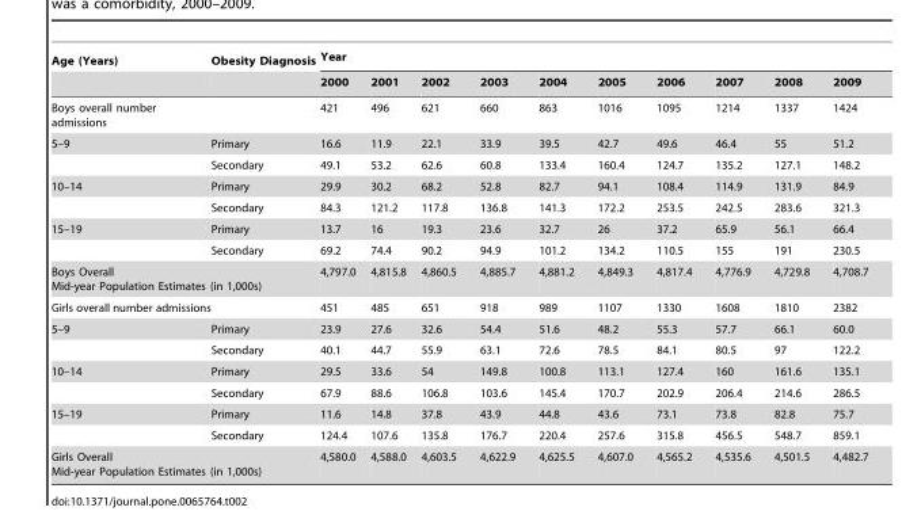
<table><thead><tr><td rowspan="2">Age (Years)</td><td rowspan="2">Obesity Diagnosis</td><td colspan="10">Year</td></tr><tr><td>2000</td><td>2001</td><td>2002</td><td>2003</td><td>2004</td><td>2005</td><td>2006</td><td>2007</td><td>2008</td><td>2009</td></tr></thead><tbody><tr><td>Boys overall number admissions</td><td></td><td>421</td><td>496</td><td>621</td><td>660</td><td>863</td><td>1016</td><td>1095</td><td>1214</td><td>1337</td><td>1424</td></tr><tr><td rowspan="2">5–9</td><td>Primary</td><td>16.6</td><td>11.9</td><td>22.1</td><td>33.9</td><td>39.5</td><td>42.7</td><td>49.6</td><td>46.4</td><td>55</td><td>51.2</td></tr><tr><td>Secondary</td><td>49.1</td><td>53.2</td><td>62.6</td><td>60.8</td><td>133.4</td><td>160.4</td><td>124.7</td><td>135.2</td><td>127.1</td><td>148.2</td></tr><tr><td rowspan="2">10–14</td><td>Primary</td><td>29.9</td><td>30.2</td><td>68.2</td><td>52.8</td><td>82.7</td><td>94.1</td><td>108.4</td><td>114.9</td><td>131.9</td><td>84.9</td></tr><tr><td>Secondary</td><td>84.3</td><td>121.2</td><td>117.8</td><td>136.8</td><td>141.3</td><td>172.2</td><td>253.5</td><td>242.5</td><td>283.6</td><td>321.3</td></tr><tr><td rowspan="2">15–19</td><td>Primary</td><td>13.7</td><td>16</td><td>19.3</td><td>23.6</td><td>32.7</td><td>26</td><td>37.2</td><td>65.9</td><td>56.1</td><td>66.4</td></tr><tr><td>Secondary</td><td>69.2</td><td>74.4</td><td>90.2</td><td>94.9</td><td>101.2</td><td>134.2</td><td>110.5</td><td>155</td><td>191</td><td>230.5</td></tr><tr><td colspan="2">Boys Overall Mid-year Population Estimates (in 1,000s)</td><td>4,797.0</td><td>4,815.8</td><td>4,860.5</td><td>4,885.7</td><td>4,881.2</td><td>4,849.3</td><td>4,817.4</td><td>4,776.9</td><td>4,729.8</td><td>4,708.7</td></tr><tr><td>Girls overall number admissions</td><td></td><td>451</td><td>485</td><td>651</td><td>918</td><td>989</td><td>1107</td><td>1330</td><td>1608</td><td>1810</td><td>2382</td></tr><tr><td rowspan="2">5–9</td><td>Primary</td><td>23.9</td><td>27.6</td><td>32.6</td><td>54.4</td><td>51.6</td><td>48.2</td><td>55.3</td><td>57.7</td><td>66.1</td><td>60.0</td></tr><tr><td>Secondary</td><td>40.1</td><td>44.7</td><td>55.9</td><td>63.1</td><td>72.6</td><td>78.5</td><td>84.1</td><td>80.5</td><td>97</td><td>122.2</td></tr><tr><td rowspan="2">10–14</td><td>Primary</td><td>29.5</td><td>33.6</td><td>54</td><td>149.8</td><td>100.8</td><td>113.1</td><td>127.4</td><td>160</td><td>161.6</td><td>135.1</td></tr><tr><td>Secondary</td><td>67.9</td><td>88.6</td><td>106.8</td><td>103.6</td><td>145.4</td><td>170.7</td><td>202.9</td><td>206.4</td><td>214.6</td><td>286.5</td></tr><tr><td rowspan="2">15–19</td><td>Primary</td><td>11.6</td><td>14.8</td><td>37.8</td><td>43.9</td><td>44.8</td><td>43.6</td><td>73.1</td><td>73.8</td><td>82.8</td><td>75.7</td></tr><tr><td>Secondary</td><td>124.4</td><td>107.6</td><td>135.8</td><td>176.7</td><td>220.4</td><td>257.6</td><td>315.8</td><td>456.5</td><td>548.7</td><td>859.1</td></tr><tr><td colspan="2">Girls Overall Mid-year Population Estimates (in 1,000s)</td><td>4,580.0</td><td>4,588.0</td><td>4,603.5</td><td>4,622.9</td><td>4,625.5</td><td>4,607.0</td><td>4,565.2</td><td>4,535.6</td><td>4,501.5</td><td>4,482.7</td></tr></tbody></table>